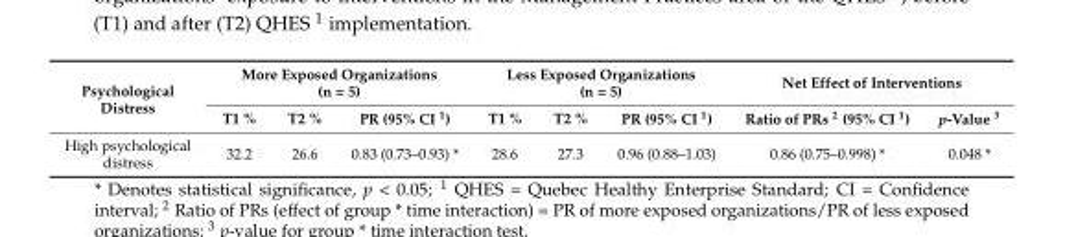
<table><thead><tr><td rowspan="2">Psychological Distress</td><td colspan="3">More Exposed Organizations (n = 5)</td><td colspan="3">Less Exposed Organizations (n = 5)</td><td colspan="2">Net Effect of Interventions</td></tr><tr><td>T1 %</td><td>T2 %</td><td>PR (95% CI <sup>1</sup>)</td><td>T1 %</td><td>T2 %</td><td>PR (95% CI <sup>1</sup>)</td><td>Ratio of PRs <sup>2</sup> (95% CI <sup>1</sup>)</td><td>p-Value <sup>3</sup></td></tr></thead><tbody><tr><td>High psychological distress</td><td>32.2</td><td>26.6</td><td>0.83 (0.73–0.93) *</td><td>28.6</td><td>27.3</td><td>0.96 (0.88–1.03)</td><td>0.86 (0.75–0.998) *</td><td>0.048 *</td></tr></tbody></table>